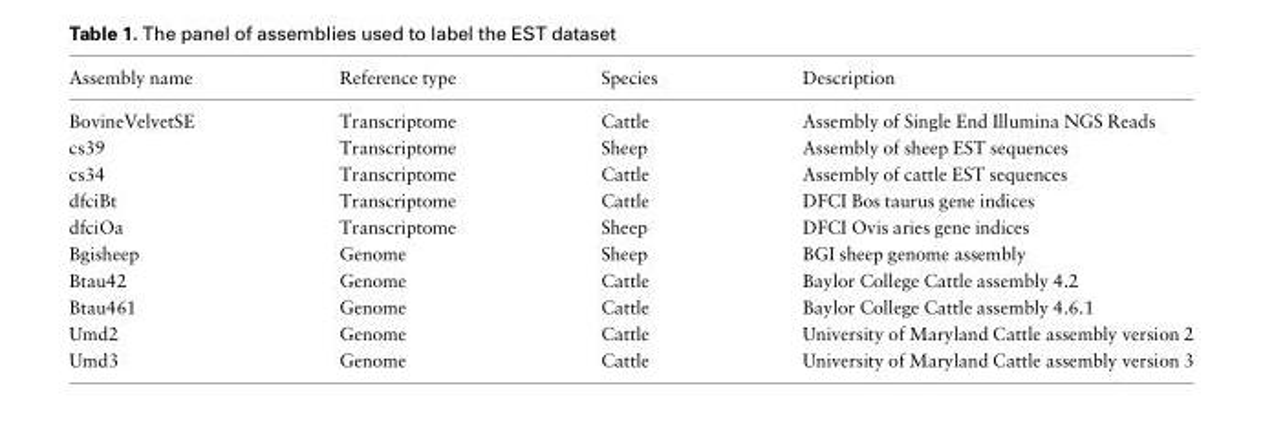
<table><thead><tr><td>Assembly name</td><td>Reference type</td><td>Species</td><td>Description</td></tr></thead><tbody><tr><td>BovineVelvetSE</td><td>Transcriptome</td><td>Cattle</td><td>Assembly of Single End Illumina NGS Reads</td></tr><tr><td>cs39</td><td>Transcriptome</td><td>Sheep</td><td>Assembly of sheep EST sequences</td></tr><tr><td>cs34</td><td>Transcriptome</td><td>Cattle</td><td>Assembly of cattle EST sequences</td></tr><tr><td>dfciBt</td><td>Transcriptome</td><td>Cattle</td><td>DFCI Bos taurus gene indices</td></tr><tr><td>dfciOa</td><td>Transcriptome</td><td>Sheep</td><td>DFCI Ovis aries gene indices</td></tr><tr><td>Bgisheep</td><td>Genome</td><td>Sheep</td><td>BGI sheep genome assembly</td></tr><tr><td>Btau42</td><td>Genome</td><td>Cattle</td><td>Baylor College Cattle assembly 4.2</td></tr><tr><td>Btau461</td><td>Genome</td><td>Cattle</td><td>Baylor College Cattle assembly 4.6.1</td></tr><tr><td>Umd2</td><td>Genome</td><td>Cattle</td><td>University of Maryland Cattle assembly version 2</td></tr><tr><td>Umd3</td><td>Genome</td><td>Cattle</td><td>University of Maryland Cattle assembly version 3</td></tr></tbody></table>